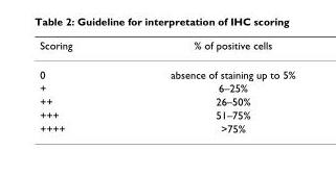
<table><thead><tr><td>Scoring</td><td>% of positive cells</td></tr></thead><tbody><tr><td>0</td><td>absence of staining up to 5%</td></tr><tr><td>+</td><td>6–25%</td></tr><tr><td>++</td><td>26–50%</td></tr><tr><td>+++</td><td>51–75%</td></tr><tr><td>++++</td><td>&gt;75%</td></tr></tbody></table>